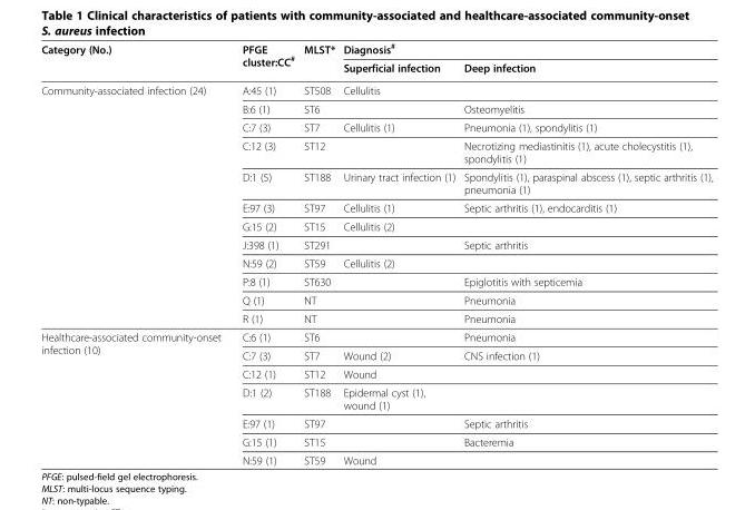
<table><thead><tr><td rowspan="2">Category (No.)</td><td rowspan="2">PFGE cluster:CC<sup>#</sup></td><td rowspan="2">MLST*</td><td colspan="2">Diagnosis<sup>#</sup></td></tr><tr><td>Superficial infection</td><td>Deep infection</td></tr></thead><tbody><tr><td rowspan="12">Community-associated infection (24)</td><td>A:45 (1)</td><td>ST508</td><td>Cellulitis</td><td></td></tr><tr><td>B:6 (1)</td><td>ST6</td><td></td><td>Osteomyelitis</td></tr><tr><td>C:7 (3)</td><td>ST7</td><td>Cellulitis (1)</td><td>Pneumonia (1), spondylitis (1)</td></tr><tr><td>C:12 (3)</td><td>ST12</td><td></td><td>Necrotizing mediastinitis (1), acute cholecystitis (1), spondylitis (1)</td></tr><tr><td>D:1 (5)</td><td>ST188</td><td>Urinary tract infection (1)</td><td>Spondylitis (1), paraspinal abscess (1), septic arthritis (1), pneumonia (1)</td></tr><tr><td>E:97 (3)</td><td>ST97</td><td>Cellulitis (1)</td><td>Septic arthritis (1), endocarditis (1)</td></tr><tr><td>G:15 (2)</td><td>ST15</td><td>Cellulitis (2)</td><td></td></tr><tr><td>J:398 (1)</td><td>ST291</td><td></td><td>Septic arthritis</td></tr><tr><td>N:59 (2)</td><td>ST59</td><td>Cellulitis (2)</td><td></td></tr><tr><td>P:8 (1)</td><td>ST630</td><td></td><td>Epiglotitis with septicemia</td></tr><tr><td>Q (1)</td><td>NT</td><td></td><td>Pneumonia</td></tr><tr><td>R (1)</td><td>NT</td><td></td><td>Pneumonia</td></tr><tr><td rowspan="7">Healthcare-associated community-onset infection (10)</td><td>C:6 (1)</td><td>ST6</td><td></td><td>Pneumonia</td></tr><tr><td>C:7 (3)</td><td>ST7</td><td>Wound (2)</td><td>CNS infection (1)</td></tr><tr><td>C:12 (1)</td><td>ST12</td><td>Wound</td><td></td></tr><tr><td>D:1 (2)</td><td>ST188</td><td>Epidermal cyst (1), wound (1)</td><td></td></tr><tr><td>E:97 (1)</td><td>ST97</td><td></td><td>Septic arthritis</td></tr><tr><td>G:15 (1)</td><td>ST15</td><td></td><td>Bacteremia</td></tr><tr><td>N:59 (1)</td><td>ST59</td><td>Wound</td><td></td></tr></tbody></table>